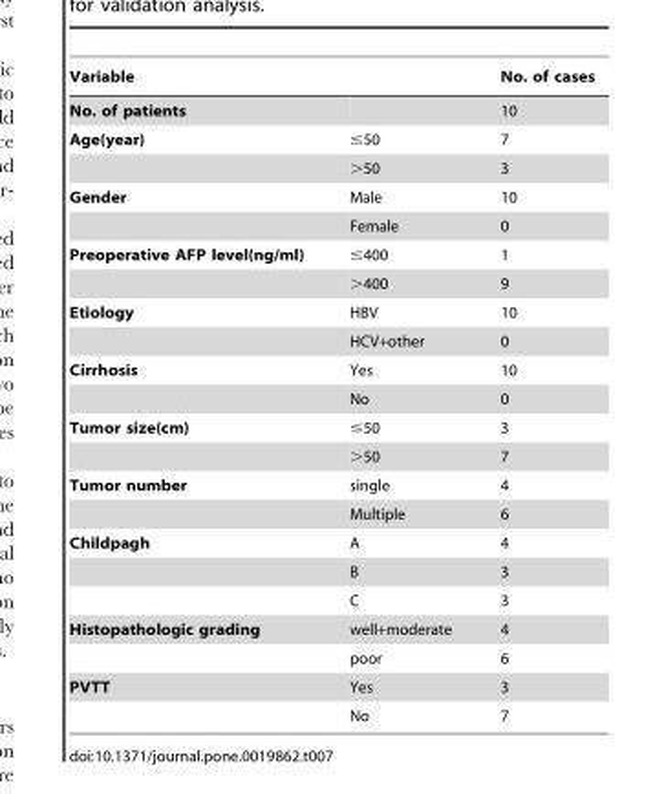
<table><thead><tr><td>Variable</td><td></td><td>No. of cases</td></tr></thead><tbody><tr><td>No. of patients</td><td></td><td>10</td></tr><tr><td rowspan="2">Age(year)</td><td>≤50</td><td>7</td></tr><tr><td>&gt;50</td><td>3</td></tr><tr><td rowspan="2">Gender</td><td>Male</td><td>10</td></tr><tr><td>Female</td><td>0</td></tr><tr><td rowspan="2">Preoperative AFP level(ng/ml)</td><td>≤400</td><td>1</td></tr><tr><td>&gt;400</td><td>9</td></tr><tr><td rowspan="2">Etiology</td><td>HBV</td><td>10</td></tr><tr><td>HCV+other</td><td>0</td></tr><tr><td rowspan="2">Cirrhosis</td><td>Yes</td><td>10</td></tr><tr><td>No</td><td>0</td></tr><tr><td rowspan="2">Tumor size(cm)</td><td>≤50</td><td>3</td></tr><tr><td>&gt;50</td><td>7</td></tr><tr><td rowspan="2">Tumor number</td><td>single</td><td>4</td></tr><tr><td>Multiple</td><td>6</td></tr><tr><td rowspan="3">Childpagh</td><td>A</td><td>4</td></tr><tr><td>B</td><td>3</td></tr><tr><td>C</td><td>3</td></tr><tr><td rowspan="2">Histopathologic grading</td><td>well+moderate</td><td>4</td></tr><tr><td>poor</td><td>6</td></tr><tr><td rowspan="2">PVTT</td><td>Yes</td><td>3</td></tr><tr><td>No</td><td>7</td></tr></tbody></table>